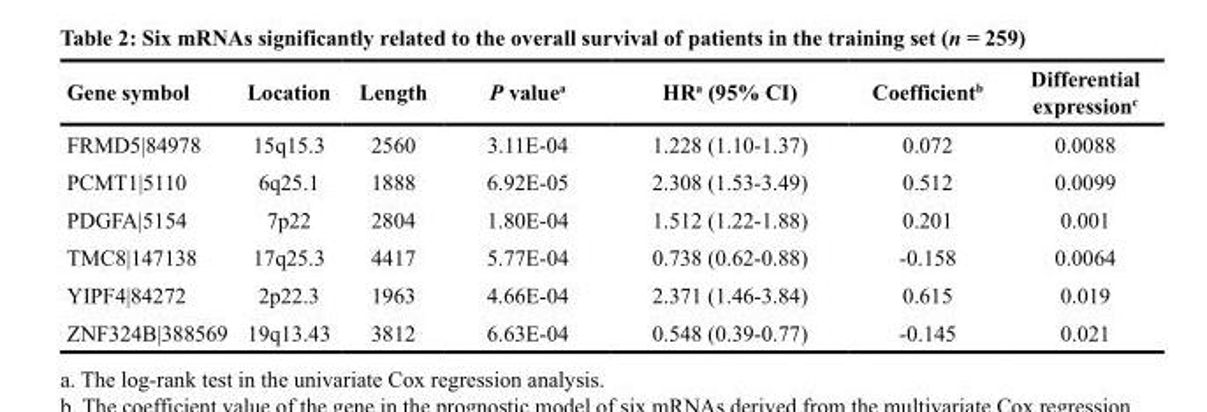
<table><thead><tr><td>Gene symbol</td><td>Location</td><td>Length</td><td>P value<sup>a</sup></td><td>HR<sup>a</sup> (95% CI)</td><td>Coefficient<sup>b</sup></td><td>Differential expression<sup>c</sup></td></tr></thead><tbody><tr><td>FRMD5|84978</td><td>15q15.3</td><td>2560</td><td>3.11E-04</td><td>1.228 (1.10-1.37)</td><td>0.072</td><td>0.0088</td></tr><tr><td>PCMT1|5110</td><td>6q25.1</td><td>1888</td><td>6.92E-05</td><td>2.308 (1.53-3.49)</td><td>0.512</td><td>0.0099</td></tr><tr><td>PDGFA|5154</td><td>7p22</td><td>2804</td><td>1.80E-04</td><td>1.512 (1.22-1.88)</td><td>0.201</td><td>0.001</td></tr><tr><td>TMC8|147138</td><td>17q25.3</td><td>4417</td><td>5.77E-04</td><td>0.738 (0.62-0.88)</td><td>-0.158</td><td>0.0064</td></tr><tr><td>YIPF4|84272</td><td>2p22.3</td><td>1963</td><td>4.66E-04</td><td>2.371 (1.46-3.84)</td><td>0.615</td><td>0.019</td></tr><tr><td>ZNF324B|388569</td><td>19q13.43</td><td>3812</td><td>6.63E-04</td><td>0.548 (0.39-0.77)</td><td>-0.145</td><td>0.021</td></tr></tbody></table>